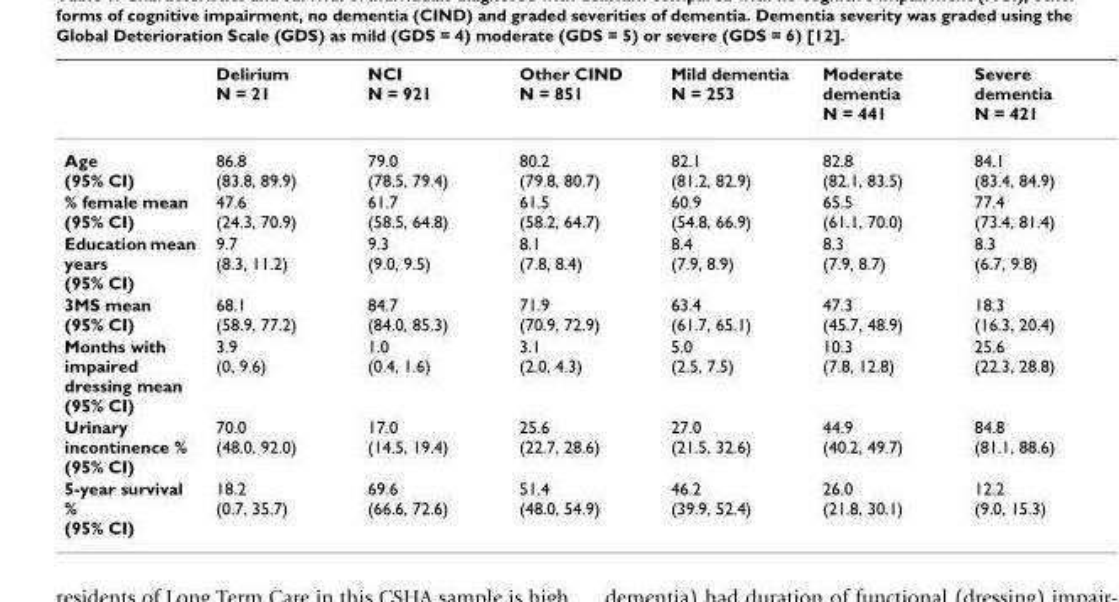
<table><thead><tr><td></td><td>Delirium N = 21</td><td>NCI N = 921</td><td>Other CIND N = 851</td><td>Mild dementia N = 253</td><td>Moderate dementia N = 441</td><td>Severe dementia N = 421</td></tr></thead><tbody><tr><td>Age (95% CI)</td><td>86.8 (83.8, 89.9)</td><td>79.0 (78.5, 79.4)</td><td>80.2 (79.8, 80.7)</td><td>82.1 (81.2, 82.9)</td><td>82.8 (82.1, 83.5)</td><td>84.1 (83.4, 84.9)</td></tr><tr><td>% female mean (95% CI)</td><td>47.6 (24.3, 70.9)</td><td>61.7 (58.5, 64.8)</td><td>61.5 (58.2, 64.7)</td><td>60.9 (54.8, 66.9)</td><td>65.5 (61.1, 70.0)</td><td>77.4 (73.4, 81.4)</td></tr><tr><td>Education mean years (95% CI)</td><td>9.7 (8.3, 11.2)</td><td>9.3 (9.0, 9.5)</td><td>8.1 (7.8, 8.4)</td><td>8.4 (7.9, 8.9)</td><td>8.3 (7.9, 8.7)</td><td>8.3 (6.7, 9.8)</td></tr><tr><td>3MS mean (95% CI)</td><td>68.1 (58.9, 77.2)</td><td>84.7 (84.0, 85.3)</td><td>71.9 (70.9, 72.9)</td><td>63.4 (61.7, 65.1)</td><td>47.3 (45.7, 48.9)</td><td>18.3 (16.3, 20.4)</td></tr><tr><td>Months with impaired dressing mean (95% CI)</td><td>3.9 (0, 9.6)</td><td>1.0 (0.4, 1.6)</td><td>3.1 (2.0, 4.3)</td><td>5.0 (2.5, 7.5)</td><td>10.3 (7.8, 12.8)</td><td>25.6 (22.3, 28.8)</td></tr><tr><td>Urinary incontinence % (95% CI)</td><td>70.0 (48.0, 92.0)</td><td>17.0 (14.5, 19.4)</td><td>25.6 (22.7, 28.6)</td><td>27.0 (21.5, 32.6)</td><td>44.9 (40.2, 49.7)</td><td>84.8 (81.1, 88.6)</td></tr><tr><td>5-year survival % (95% CI)</td><td>18.2 (0.7, 35.7)</td><td>69.6 (66.6, 72.6)</td><td>51.4 (48.0, 54.9)</td><td>46.2 (39.9, 52.4)</td><td>26.0 (21.8, 30.1)</td><td>12.2 (9.0, 15.3)</td></tr></tbody></table>